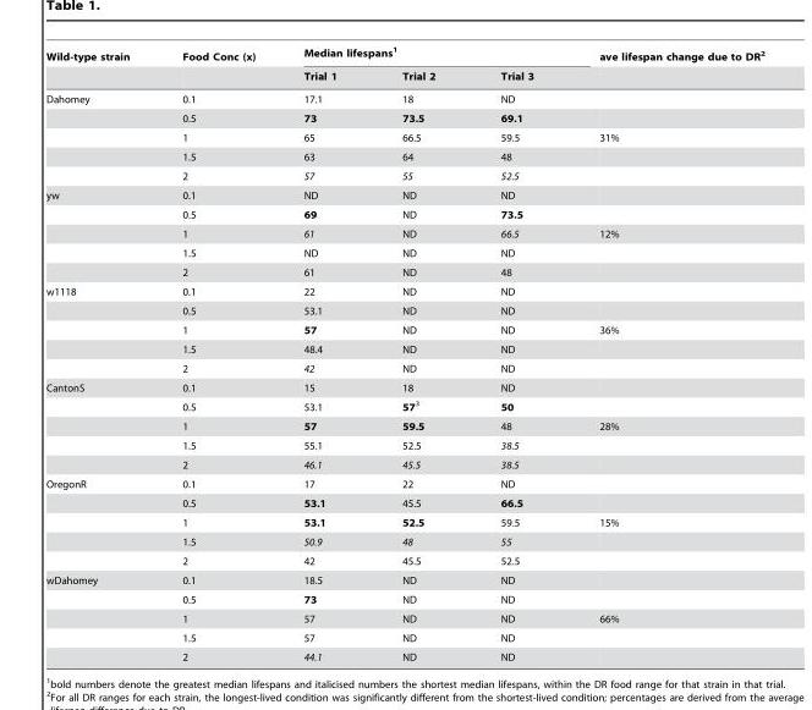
<table><thead><tr><td rowspan="2">Wild-type strain</td><td rowspan="2">Food Conc (x)</td><td colspan="3">Median lifespans<sup>1</sup></td><td rowspan="2">ave lifespan change due to DR<sup>2</sup></td></tr><tr><td>Trial 1</td><td>Trial 2</td><td>Trial 3</td></tr></thead><tbody><tr><td rowspan="5">Dahomey</td><td>0.1</td><td>17.1</td><td>18</td><td>ND</td><td></td></tr><tr><td>0.5</td><td>73</td><td>73.5</td><td>69.1</td><td></td></tr><tr><td>1</td><td>65</td><td>66.5</td><td>59.5</td><td>31%</td></tr><tr><td>1.5</td><td>63</td><td>64</td><td>48</td><td></td></tr><tr><td>2</td><td>57</td><td>55</td><td>52.5</td><td></td></tr><tr><td rowspan="5">yw</td><td>0.1</td><td>ND</td><td>ND</td><td>ND</td><td></td></tr><tr><td>0.5</td><td>69</td><td>ND</td><td>73.5</td><td></td></tr><tr><td>1</td><td>61</td><td>ND</td><td>66.5</td><td>12%</td></tr><tr><td>1.5</td><td>ND</td><td>ND</td><td>ND</td><td></td></tr><tr><td>2</td><td>61</td><td>ND</td><td>48</td><td></td></tr><tr><td rowspan="5">w1118</td><td>0.1</td><td>22</td><td>ND</td><td>ND</td><td></td></tr><tr><td>0.5</td><td>53.1</td><td>ND</td><td>ND</td><td></td></tr><tr><td>1</td><td>57</td><td>ND</td><td>ND</td><td>36%</td></tr><tr><td>1.5</td><td>48.4</td><td>ND</td><td>ND</td><td></td></tr><tr><td>2</td><td>42</td><td>ND</td><td>ND</td><td></td></tr><tr><td rowspan="5">CantonS</td><td>0.1</td><td>15</td><td>18</td><td>ND</td><td></td></tr><tr><td>0.5</td><td>53.1</td><td>573</td><td>50</td><td></td></tr><tr><td>1</td><td>57</td><td>59.5</td><td>48</td><td>28%</td></tr><tr><td>1.5</td><td>55.1</td><td>52.5</td><td>38.5</td><td></td></tr><tr><td>2</td><td>46.1</td><td>45.5</td><td>38.5</td><td></td></tr><tr><td rowspan="5">OregonR</td><td>0.1</td><td>17</td><td>22</td><td>ND</td><td></td></tr><tr><td>0.5</td><td>53.1</td><td>45.5</td><td>66.5</td><td></td></tr><tr><td>1</td><td>53.1</td><td>52.5</td><td>59.5</td><td>15%</td></tr><tr><td>1.5</td><td>50.9</td><td>48</td><td>55</td><td></td></tr><tr><td>2</td><td>42</td><td>45.5</td><td>52.5</td><td></td></tr><tr><td rowspan="5">wDahomey</td><td>0.1</td><td>18.5</td><td>ND</td><td>ND</td><td></td></tr><tr><td>0.5</td><td>73</td><td>ND</td><td>ND</td><td></td></tr><tr><td>1</td><td>57</td><td>ND</td><td>ND</td><td>66%</td></tr><tr><td>1.5</td><td>57</td><td>ND</td><td>ND</td><td></td></tr><tr><td>2</td><td>44.1</td><td>ND</td><td>ND</td><td></td></tr></tbody></table>